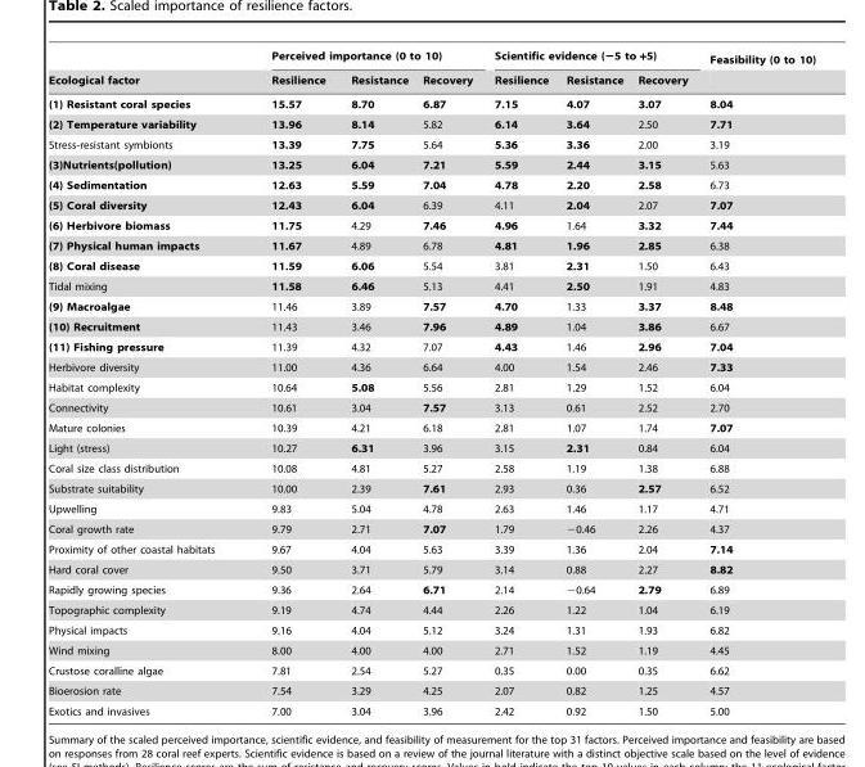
<table><thead><tr><td rowspan="2">Ecological factor</td><td colspan="3">Perceived importance (0 to 10)</td><td colspan="3">Scientific evidence (−5 to +5)</td><td rowspan="2">Feasibility (0 to 10)</td></tr><tr><td>Resilience</td><td>Resistance</td><td>Recovery</td><td>Resilience</td><td>Resistance</td><td>Recovery</td></tr></thead><tbody><tr><td>(1) Resistant coral species</td><td>15.57</td><td>8.70</td><td>6.87</td><td>7.15</td><td>4.07</td><td>3.07</td><td>8.04</td></tr><tr><td>(2) Temperature variability</td><td>13.96</td><td>8.14</td><td>5.82</td><td>6.14</td><td>3.64</td><td>2.50</td><td>7.71</td></tr><tr><td>Stress-resistant symbionts</td><td>13.39</td><td>7.75</td><td>5.64</td><td>5.36</td><td>3.36</td><td>2.00</td><td>3.19</td></tr><tr><td>(3)Nutrients(pollution)</td><td>13.25</td><td>6.04</td><td>7.21</td><td>5.59</td><td>2.44</td><td>3.15</td><td>5.63</td></tr><tr><td>(4) Sedimentation</td><td>12.63</td><td>5.59</td><td>7.04</td><td>4.78</td><td>2.20</td><td>2.58</td><td>6.73</td></tr><tr><td>(5) Coral diversity</td><td>12.43</td><td>6.04</td><td>6.39</td><td>4.11</td><td>2.04</td><td>2.07</td><td>7.07</td></tr><tr><td>(6) Herbivore biomass</td><td>11.75</td><td>4.29</td><td>7.46</td><td>4.96</td><td>1.64</td><td>3.32</td><td>7.44</td></tr><tr><td>(7) Physical human impacts</td><td>11.67</td><td>4.89</td><td>6.78</td><td>4.81</td><td>1.96</td><td>2.85</td><td>6.38</td></tr><tr><td>(8) Coral disease</td><td>11.59</td><td>6.06</td><td>5.54</td><td>3.81</td><td>2.31</td><td>1.50</td><td>6.43</td></tr><tr><td>Tidal mixing</td><td>11.58</td><td>6.46</td><td>5.13</td><td>4.41</td><td>2.50</td><td>1.91</td><td>4.83</td></tr><tr><td>(9) Macroalgae</td><td>11.46</td><td>3.89</td><td>7.57</td><td>4.70</td><td>1.33</td><td>3.37</td><td>8.48</td></tr><tr><td>(10) Recruitment</td><td>11.43</td><td>3.46</td><td>7.96</td><td>4.89</td><td>1.04</td><td>3.86</td><td>6.67</td></tr><tr><td>(11) Fishing pressure</td><td>11.39</td><td>4.32</td><td>7.07</td><td>4.43</td><td>1.46</td><td>2.96</td><td>7.04</td></tr><tr><td>Herbivore diversity</td><td>11.00</td><td>4.36</td><td>6.64</td><td>4.00</td><td>1.54</td><td>2.46</td><td>7.33</td></tr><tr><td>Habitat complexity</td><td>10.64</td><td>5.08</td><td>5.56</td><td>2.81</td><td>1.29</td><td>1.52</td><td>6.04</td></tr><tr><td>Connectivity</td><td>10.61</td><td>3.04</td><td>7.57</td><td>3.13</td><td>0.61</td><td>2.52</td><td>2.70</td></tr><tr><td>Mature colonies</td><td>10.39</td><td>4.21</td><td>6.18</td><td>2.81</td><td>1.07</td><td>1.74</td><td>7.07</td></tr><tr><td>Light (stress)</td><td>10.27</td><td>6.31</td><td>3.96</td><td>3.15</td><td>2.31</td><td>0.84</td><td>6.04</td></tr><tr><td>Coral size class distribution</td><td>10.08</td><td>4.81</td><td>5.27</td><td>2.58</td><td>1.19</td><td>1.38</td><td>6.88</td></tr><tr><td>Substrate suitability</td><td>10.00</td><td>2.39</td><td>7.61</td><td>2.93</td><td>0.36</td><td>2.57</td><td>6.52</td></tr><tr><td>Upwelling</td><td>9.83</td><td>5.04</td><td>4.78</td><td>2.63</td><td>1.46</td><td>1.17</td><td>4.71</td></tr><tr><td>Coral growth rate</td><td>9.79</td><td>2.71</td><td>7.07</td><td>1.79</td><td>−0.46</td><td>2.26</td><td>4.37</td></tr><tr><td>Proximity of other coastal habitats</td><td>9.67</td><td>4.04</td><td>5.63</td><td>3.39</td><td>1.36</td><td>2.04</td><td>7.14</td></tr><tr><td>Hard coral cover</td><td>9.50</td><td>3.71</td><td>5.79</td><td>3.14</td><td>0.88</td><td>2.27</td><td>8.82</td></tr><tr><td>Rapidly growing species</td><td>9.36</td><td>2.64</td><td>6.71</td><td>2.14</td><td>−0.64</td><td>2.79</td><td>6.89</td></tr><tr><td>Topographic complexity</td><td>9.19</td><td>4.74</td><td>4.44</td><td>2.26</td><td>1.22</td><td>1.04</td><td>6.19</td></tr><tr><td>Physical impacts</td><td>9.16</td><td>4.04</td><td>5.12</td><td>3.24</td><td>1.31</td><td>1.93</td><td>6.82</td></tr><tr><td>Wind mixing</td><td>8.00</td><td>4.00</td><td>4.00</td><td>2.71</td><td>1.52</td><td>1.19</td><td>4.45</td></tr><tr><td>Crustose coralline algae</td><td>7.81</td><td>2.54</td><td>5.27</td><td>0.35</td><td>0.00</td><td>0.35</td><td>6.62</td></tr><tr><td>Bioerosion rate</td><td>7.54</td><td>3.29</td><td>4.25</td><td>2.07</td><td>0.82</td><td>1.25</td><td>4.57</td></tr><tr><td>Exotics and invasives</td><td>7.00</td><td>3.04</td><td>3.96</td><td>2.42</td><td>0.92</td><td>1.50</td><td>5.00</td></tr></tbody></table>